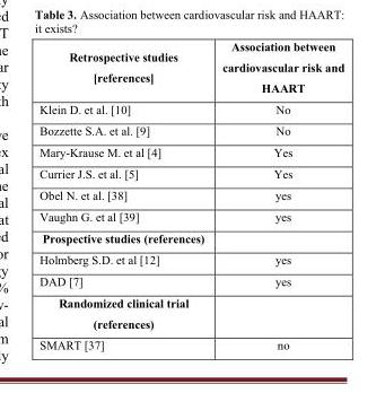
<table><thead><tr><td>Retrospective studies [references]</td><td>Association between cardiovascular risk and HAART</td></tr></thead><tbody><tr><td>Klein D. et al. [10]</td><td>No</td></tr><tr><td>Bozzette S.A. et al. [9]</td><td>No</td></tr><tr><td>Mary-Krause M. et al [4]</td><td>Yes</td></tr><tr><td>Currier J.S. et al. [5]</td><td>Yes</td></tr><tr><td>Obel N. et al. [38]</td><td>yes</td></tr><tr><td>Vaughn G. et al [39]</td><td>yes</td></tr><tr><td colspan="2">Prospective studies (references)</td></tr><tr><td>Holmberg S.D. et al [12]</td><td>yes</td></tr><tr><td>DAD [7]</td><td>yes</td></tr><tr><td colspan="2">Randomized clinical trial (references)</td></tr><tr><td>SMART [37]</td><td>no</td></tr></tbody></table>